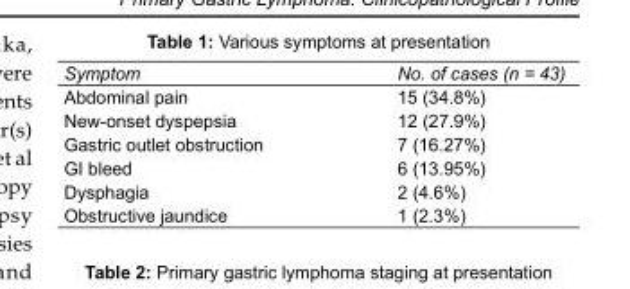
<table><tbody><tr><td>Symptom</td><td>No. of cases (n = 43)</td></tr><tr><td>Abdominal pain</td><td>15 (34.8%)</td></tr><tr><td>New-onset dyspepsia</td><td>12 (27.9%)</td></tr><tr><td>Gastric outlet obstruction</td><td>7 (16.27%)</td></tr><tr><td>GI bleed</td><td>6 (13.95%)</td></tr><tr><td>Dysphagia</td><td>2 (4.6%)</td></tr><tr><td>Obstructive jaundice</td><td>1 (2.3%)</td></tr></tbody></table>